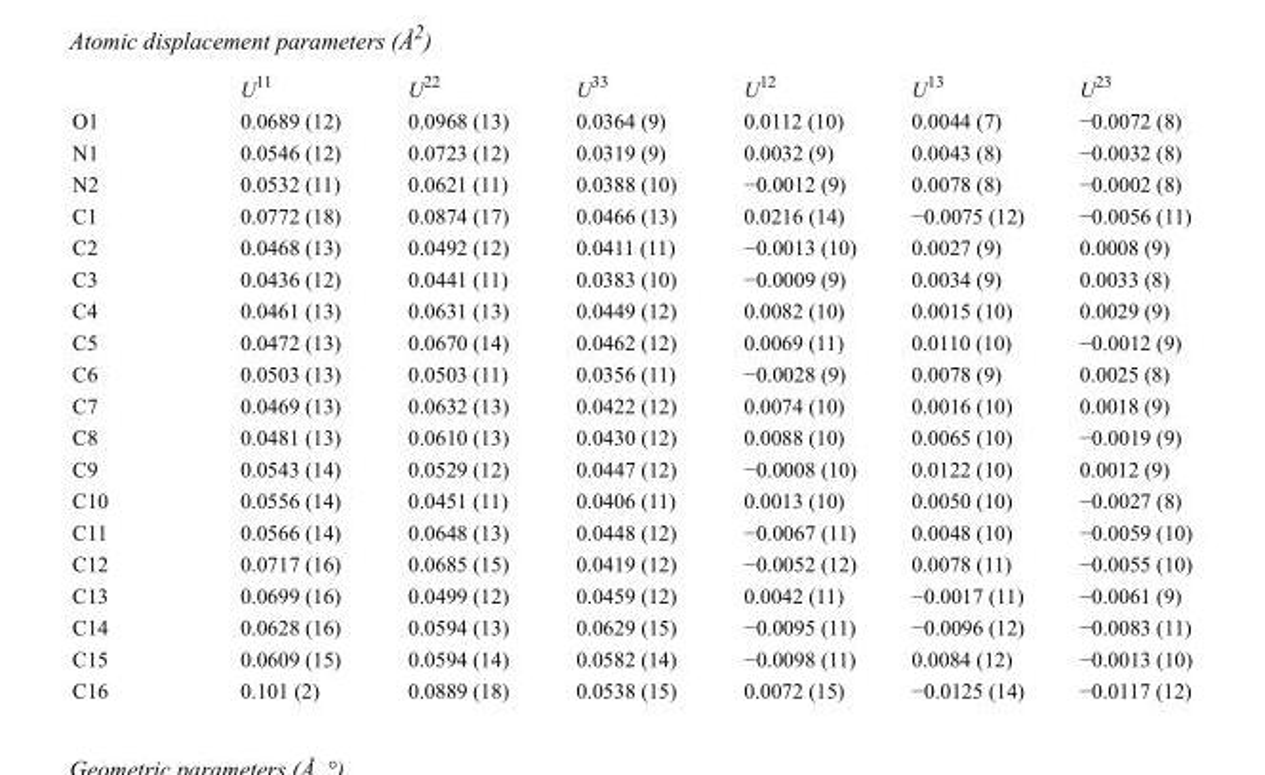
<table><thead><tr><td></td><td>U<sup>11</sup></td><td>U<sup>22</sup></td><td>U<sup>33</sup></td><td>U<sup>12</sup></td><td>U<sup>13</sup></td><td>U<sup>23</sup></td></tr></thead><tbody><tr><td>O1</td><td>0.0689 (12)</td><td>0.0968 (13)</td><td>0.0364 (9)</td><td>0.0112 (10)</td><td>0.0044 (7)</td><td>−0.0072 (8)</td></tr><tr><td>N1</td><td>0.0546 (12)</td><td>0.0723 (12)</td><td>0.0319 (9)</td><td>0.0032 (9)</td><td>0.0043 (8)</td><td>−0.0032 (8)</td></tr><tr><td>N2</td><td>0.0532 (11)</td><td>0.0621 (11)</td><td>0.0388 (10)</td><td>−0.0012 (9)</td><td>0.0078 (8)</td><td>−0.0002 (8)</td></tr><tr><td>C1</td><td>0.0772 (18)</td><td>0.0874 (17)</td><td>0.0466 (13)</td><td>0.0216 (14)</td><td>−0.0075 (12)</td><td>−0.0056 (11)</td></tr><tr><td>C2</td><td>0.0468 (13)</td><td>0.0492 (12)</td><td>0.0411 (11)</td><td>−0.0013 (10)</td><td>0.0027 (9)</td><td>0.0008 (9)</td></tr><tr><td>C3</td><td>0.0436 (12)</td><td>0.0441 (11)</td><td>0.0383 (10)</td><td>−0.0009 (9)</td><td>0.0034 (9)</td><td>0.0033 (8)</td></tr><tr><td>C4</td><td>0.0461 (13)</td><td>0.0631 (13)</td><td>0.0449 (12)</td><td>0.0082 (10)</td><td>0.0015 (10)</td><td>0.0029 (9)</td></tr><tr><td>C5</td><td>0.0472 (13)</td><td>0.0670 (14)</td><td>0.0462 (12)</td><td>0.0069 (11)</td><td>0.0110 (10)</td><td>−0.0012 (9)</td></tr><tr><td>C6</td><td>0.0503 (13)</td><td>0.0503 (11)</td><td>0.0356 (11)</td><td>−0.0028 (9)</td><td>0.0078 (9)</td><td>0.0025 (8)</td></tr><tr><td>C7</td><td>0.0469 (13)</td><td>0.0632 (13)</td><td>0.0422 (12)</td><td>0.0074 (10)</td><td>0.0016 (10)</td><td>0.0018 (9)</td></tr><tr><td>C8</td><td>0.0481 (13)</td><td>0.0610 (13)</td><td>0.0430 (12)</td><td>0.0088 (10)</td><td>0.0065 (10)</td><td>−0.0019 (9)</td></tr><tr><td>C9</td><td>0.0543 (14)</td><td>0.0529 (12)</td><td>0.0447 (12)</td><td>−0.0008 (10)</td><td>0.0122 (10)</td><td>0.0012 (9)</td></tr><tr><td>C10</td><td>0.0556 (14)</td><td>0.0451 (11)</td><td>0.0406 (11)</td><td>0.0013 (10)</td><td>0.0050 (10)</td><td>−0.0027 (8)</td></tr><tr><td>C11</td><td>0.0566 (14)</td><td>0.0648 (13)</td><td>0.0448 (12)</td><td>−0.0067 (11)</td><td>0.0048 (10)</td><td>−0.0059 (10)</td></tr><tr><td>C12</td><td>0.0717 (16)</td><td>0.0685 (15)</td><td>0.0419 (12)</td><td>−0.0052 (12)</td><td>0.0078 (11)</td><td>−0.0055 (10)</td></tr><tr><td>C13</td><td>0.0699 (16)</td><td>0.0499 (12)</td><td>0.0459 (12)</td><td>0.0042 (11)</td><td>−0.0017 (11)</td><td>−0.0061 (9)</td></tr><tr><td>C14</td><td>0.0628 (16)</td><td>0.0594 (13)</td><td>0.0629 (15)</td><td>−0.0095 (11)</td><td>−0.0096 (12)</td><td>−0.0083 (11)</td></tr><tr><td>C15</td><td>0.0609 (15)</td><td>0.0594 (14)</td><td>0.0582 (14)</td><td>−0.0098 (11)</td><td>0.0084 (12)</td><td>−0.0013 (10)</td></tr><tr><td>C16</td><td>0.101 (2)</td><td>0.0889 (18)</td><td>0.0538 (15)</td><td>0.0072 (15)</td><td>−0.0125 (14)</td><td>−0.0117 (12)</td></tr></tbody></table>